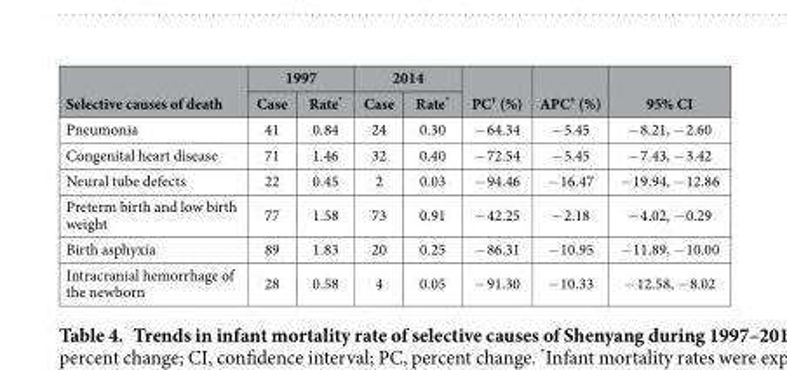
<table><thead><tr><td rowspan="2">Selective causes of death</td><td colspan="2">1997</td><td colspan="2">2014</td><td rowspan="2">PC† (%)</td><td rowspan="2">APC† (%)</td><td rowspan="2">95% CI</td></tr><tr><td>Case</td><td>Rate*</td><td>Case</td><td>Rate*</td></tr></thead><tbody><tr><td>Pneumonia</td><td>41</td><td>0.84</td><td>24</td><td>0.30</td><td>− 64.34</td><td>− 5.45</td><td>− 8.21, − 2.60</td></tr><tr><td>Congenital heart disease</td><td>71</td><td>1.46</td><td>32</td><td>0.40</td><td>− 72.54</td><td>− 5.45</td><td>− 7.43, − 3.42</td></tr><tr><td>Neural tube defects</td><td>22</td><td>0.45</td><td>2</td><td>0.03</td><td>− 94.46</td><td>− 16.47</td><td>− 19.94, − 12.86</td></tr><tr><td>Preterm birth and low birth weight</td><td>77</td><td>1.58</td><td>73</td><td>0.91</td><td>− 42.25</td><td>− 2.18</td><td>− 4.02, − 0.29</td></tr><tr><td>Birth asphyxia</td><td>89</td><td>1.83</td><td>20</td><td>0.25</td><td>− 86.31</td><td>− 10.95</td><td>− 11.89, − 10.00</td></tr><tr><td>Intracranial hemorrhage of the newborn</td><td>28</td><td>0.58</td><td>4</td><td>0.05</td><td>− 91.30</td><td>− 10.33</td><td>− 12.58, − 8.02</td></tr></tbody></table>